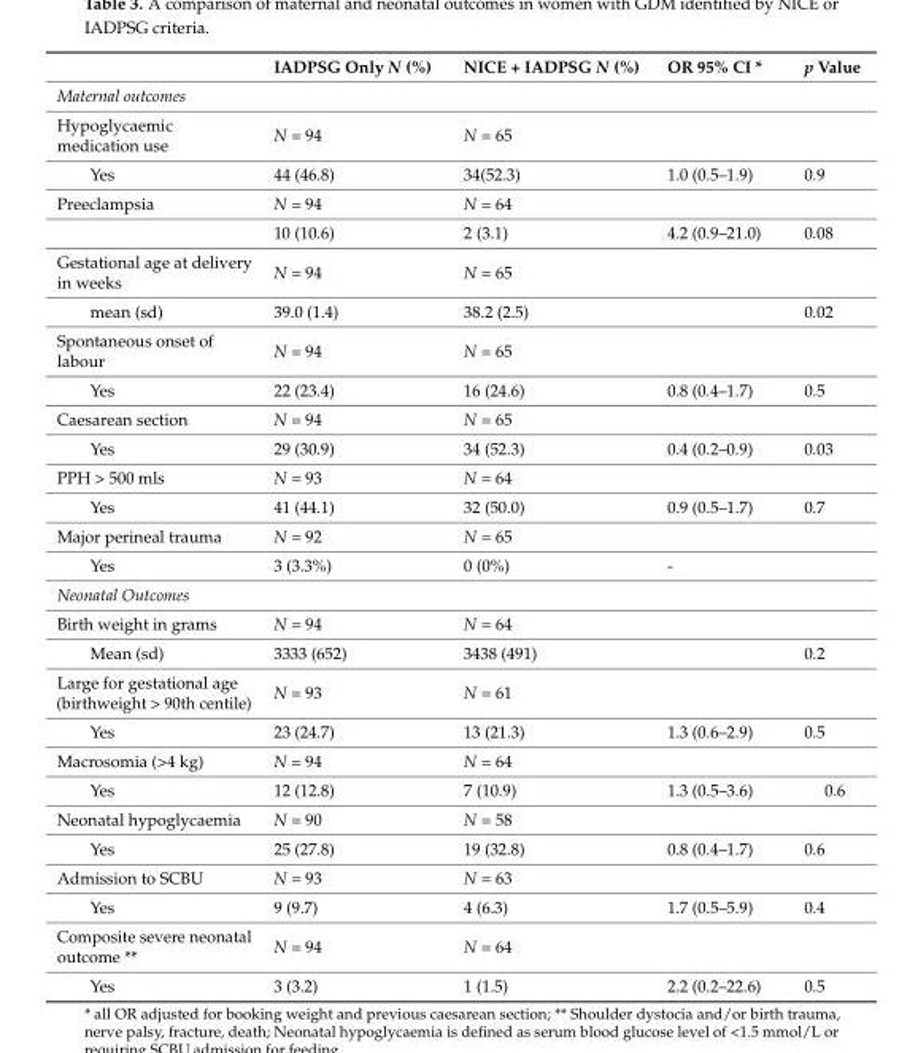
<table><thead><tr><td></td><td>IADPSG Only N (%)</td><td>NICE + IADPSG N (%)</td><td>OR 95% CI *</td><td>p Value</td></tr></thead><tbody><tr><td colspan="5">Maternal outcomes</td></tr><tr><td>Hypoglycaemic medication use</td><td>N = 94</td><td>N = 65</td><td></td><td></td></tr><tr><td>Yes</td><td>44 (46.8)</td><td>34(52.3)</td><td>1.0 (0.5–1.9)</td><td>0.9</td></tr><tr><td rowspan="2">Preeclampsia</td><td>N = 94</td><td>N = 64</td><td></td><td></td></tr><tr><td>10 (10.6)</td><td>2 (3.1)</td><td>4.2 (0.9–21.0)</td><td>0.08</td></tr><tr><td>Gestational age at delivery in weeks</td><td>N = 94</td><td>N = 65</td><td></td><td></td></tr><tr><td>mean (sd)</td><td>39.0 (1.4)</td><td>38.2 (2.5)</td><td></td><td>0.02</td></tr><tr><td>Spontaneous onset of labour</td><td>N = 94</td><td>N = 65</td><td></td><td></td></tr><tr><td>Yes</td><td>22 (23.4)</td><td>16 (24.6)</td><td>0.8 (0.4–1.7)</td><td>0.5</td></tr><tr><td>Caesarean section</td><td>N = 94</td><td>N = 65</td><td></td><td></td></tr><tr><td>Yes</td><td>29 (30.9)</td><td>34 (52.3)</td><td>0.4 (0.2–0.9)</td><td>0.03</td></tr><tr><td>PPH &gt; 500 mls</td><td>N = 93</td><td>N = 64</td><td></td><td></td></tr><tr><td>Yes</td><td>41 (44.1)</td><td>32 (50.0)</td><td>0.9 (0.5–1.7)</td><td>0.7</td></tr><tr><td>Major perineal trauma</td><td>N = 92</td><td>N = 65</td><td></td><td></td></tr><tr><td>Yes</td><td>3 (3.3%)</td><td>0 (0%)</td><td>-</td><td></td></tr><tr><td colspan="5">Neonatal Outcomes</td></tr><tr><td>Birth weight in grams</td><td>N = 94</td><td>N = 64</td><td></td><td></td></tr><tr><td>Mean (sd)</td><td>3333 (652)</td><td>3438 (491)</td><td></td><td>0.2</td></tr><tr><td>Large for gestational age (birthweight &gt; 90th centile)</td><td>N = 93</td><td>N = 61</td><td></td><td></td></tr><tr><td>Yes</td><td>23 (24.7)</td><td>13 (21.3)</td><td>1.3 (0.6–2.9)</td><td>0.5</td></tr><tr><td>Macrosomia (&gt;4 kg)</td><td>N = 94</td><td>N = 64</td><td></td><td></td></tr><tr><td>Yes</td><td>12 (12.8)</td><td>7 (10.9)</td><td>1.3 (0.5–3.6)</td><td>0.6</td></tr><tr><td>Neonatal hypoglycaemia</td><td>N = 90</td><td>N = 58</td><td></td><td></td></tr><tr><td>Yes</td><td>25 (27.8)</td><td>19 (32.8)</td><td>0.8 (0.4–1.7)</td><td>0.6</td></tr><tr><td>Admission to SCBU</td><td>N = 93</td><td>N = 63</td><td></td><td></td></tr><tr><td>Yes</td><td>9 (9.7)</td><td>4 (6.3)</td><td>1.7 (0.5–5.9)</td><td>0.4</td></tr><tr><td>Composite severe neonatal outcome **</td><td>N = 94</td><td>N = 64</td><td></td><td></td></tr><tr><td>Yes</td><td>3 (3.2)</td><td>1 (1.5)</td><td>2.2 (0.2–22.6)</td><td>0.5</td></tr></tbody></table>